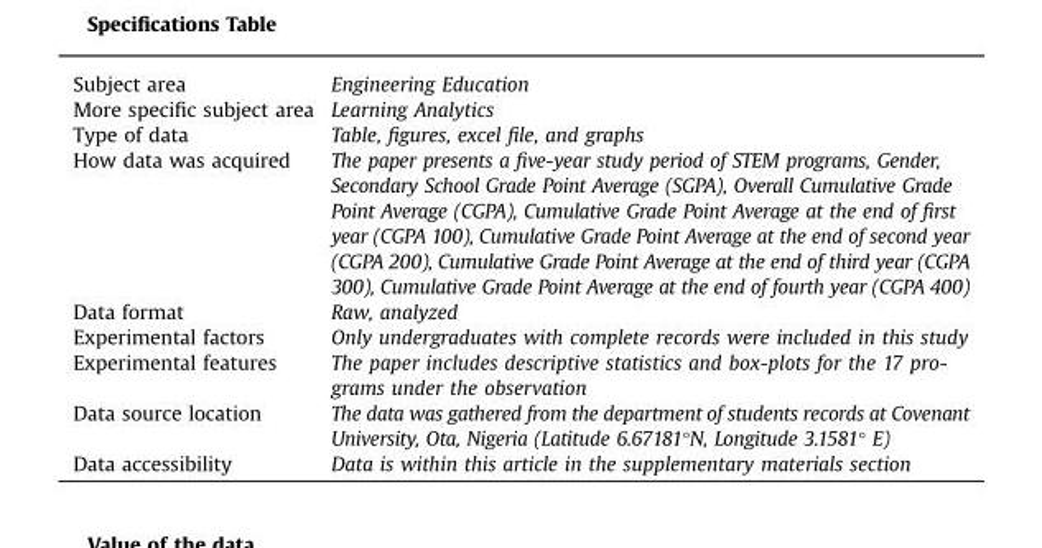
<table><tbody><tr><td>Subject area</td><td>Engineering Education</td></tr><tr><td>More specific subject area</td><td>Learning Analytics</td></tr><tr><td>Type of data</td><td>Table, figures, excel file, and graphs</td></tr><tr><td>How data was acquired</td><td>The paper presents a five-year study period of STEM programs, Gender, Secondary School Grade Point Average (SGPA), Overall Cumulative Grade Point Average (CGPA), Cumulative Grade Point Average at the end of first year (CGPA 100), Cumulative Grade Point Average at the end of second year (CGPA 200), Cumulative Grade Point Average at the end of third year (CGPA 300), Cumulative Grade Point Average at the end of fourth year (CGPA 400)</td></tr><tr><td>Data format</td><td>Raw, analyzed</td></tr><tr><td>Experimental factors</td><td>Only undergraduates with complete records were included in this study</td></tr><tr><td>Experimental features</td><td>The paper includes descriptive statistics and box-plots for the 17 pro- grams under the observation</td></tr><tr><td>Data source location</td><td>The data was gathered from the department of students records at Covenant University, Ota, Nigeria (Latitude 6.67181°N, Longitude 3.1581° E)</td></tr><tr><td>Data accessibility</td><td>Data is within this article in the supplementary materials section</td></tr></tbody></table>